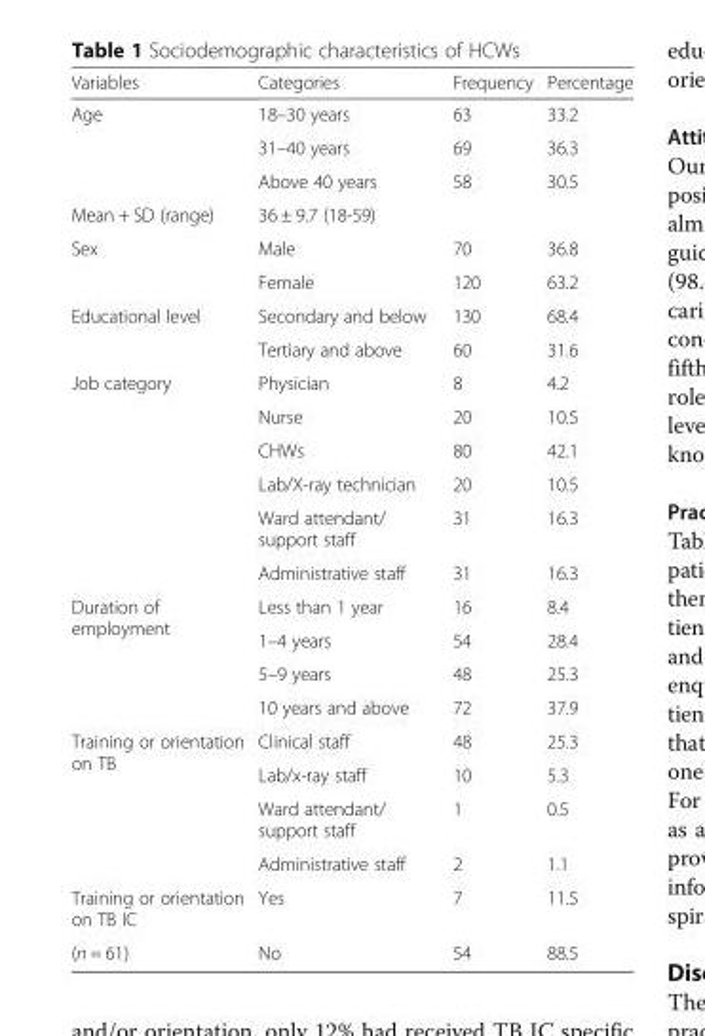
<table><thead><tr><td>Variables</td><td>Categories</td><td>Frequency</td><td>Percentage</td></tr></thead><tbody><tr><td rowspan="3">Age</td><td>18–30 years</td><td>63</td><td>33.2</td></tr><tr><td>31–40 years</td><td>69</td><td>36.3</td></tr><tr><td>Above 40 years</td><td>58</td><td>30.5</td></tr><tr><td>Mean + SD (range)</td><td>36 ± 9.7 (18-59)</td><td></td><td></td></tr><tr><td rowspan="2">Sex</td><td>Male</td><td>70</td><td>36.8</td></tr><tr><td>Female</td><td>120</td><td>63.2</td></tr><tr><td rowspan="2">Educational level</td><td>Secondary and below</td><td>130</td><td>68.4</td></tr><tr><td>Tertiary and above</td><td>60</td><td>31.6</td></tr><tr><td rowspan="6">Job category</td><td>Physician</td><td>8</td><td>4.2</td></tr><tr><td>Nurse</td><td>20</td><td>10.5</td></tr><tr><td>CHWs</td><td>80</td><td>42.1</td></tr><tr><td>Lab/X-ray technician</td><td>20</td><td>10.5</td></tr><tr><td>Ward attendant/ support staff</td><td>31</td><td>16.3</td></tr><tr><td>Administrative staff</td><td>31</td><td>16.3</td></tr><tr><td rowspan="4">Duration of employment</td><td>Less than 1 year</td><td>16</td><td>8.4</td></tr><tr><td>1–4 years</td><td>54</td><td>28.4</td></tr><tr><td>5–9 years</td><td>48</td><td>25.3</td></tr><tr><td>10 years and above</td><td>72</td><td>37.9</td></tr><tr><td rowspan="4">Training or orientation on TB</td><td>Clinical staff</td><td>48</td><td>25.3</td></tr><tr><td>Lab/x-ray staff</td><td>10</td><td>5.3</td></tr><tr><td>Ward attendant/ support staff</td><td>1</td><td>0.5</td></tr><tr><td>Administrative staff</td><td>2</td><td>1.1</td></tr><tr><td>Training or orientation on TB IC</td><td>Yes</td><td>7</td><td>11.5</td></tr><tr><td>(n = 61)</td><td>No</td><td>54</td><td>88.5</td></tr></tbody></table>